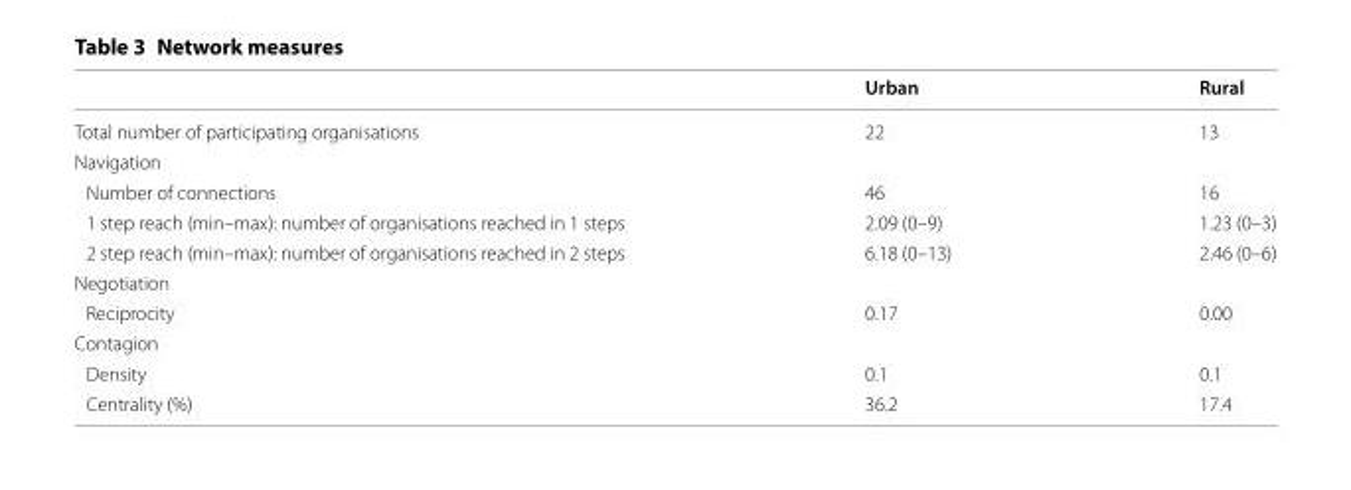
<table><thead><tr><td></td><td>Urban</td><td>Rural</td></tr></thead><tbody><tr><td>Total number of participating organisations</td><td>22</td><td>13</td></tr><tr><td colspan="3">Navigation</td></tr><tr><td>Number of connections</td><td>46</td><td>16</td></tr><tr><td>1 step reach (min–max): number of organisations reached in 1 steps</td><td>2.09 (0–9)</td><td>1.23 (0–3)</td></tr><tr><td>2 step reach (min–max): number of organisations reached in 2 steps</td><td>6.18 (0–13)</td><td>2.46 (0–6)</td></tr><tr><td colspan="3">Negotiation</td></tr><tr><td>Reciprocity</td><td>0.17</td><td>0.00</td></tr><tr><td colspan="3">Contagion</td></tr><tr><td>Density</td><td>0.1</td><td>0.1</td></tr><tr><td>Centrality (%)</td><td>36.2</td><td>17.4</td></tr></tbody></table>